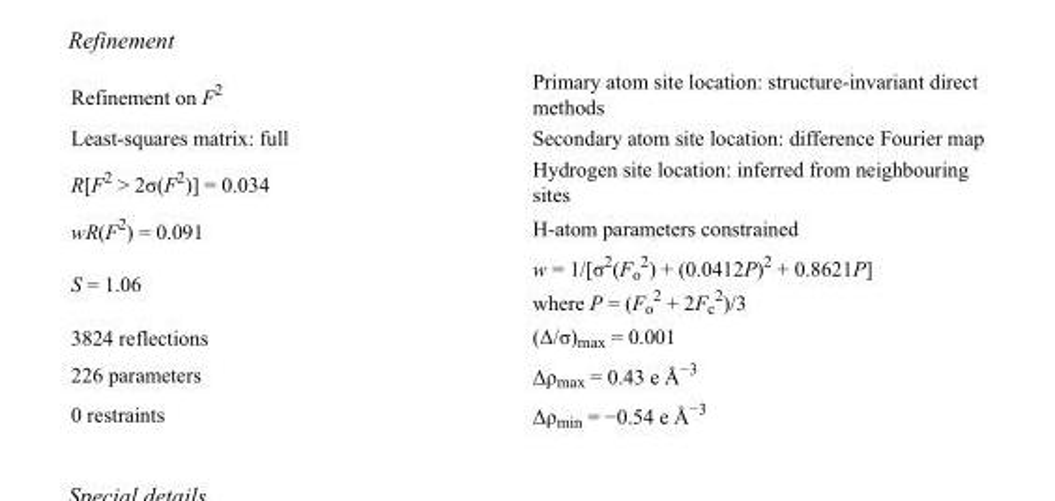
<table><tbody><tr><td>Refinement on F<sup>2</sup></td><td>Primary atom site location: structure-invariant direct methods</td></tr><tr><td>Least-squares matrix: full</td><td>Secondary atom site location: difference Fourier map</td></tr><tr><td>R[F<sup>2</sup> &gt; 2σ(F<sup>2</sup>)] = 0.034</td><td>Hydrogen site location: inferred from neighbouring sites</td></tr><tr><td>wR(F<sup>2</sup>) = 0.091</td><td>H-atom parameters constrained</td></tr><tr><td>S = 1.06</td><td>w = 1/[σ<sup>2</sup>(F<sub>o</sub> <sup>2</sup>) + (0.0412P)<sup>2</sup> + 0.8621P] where P = (F<sub>o</sub> <sup>2</sup> + 2F<sub>c</sub> <sup>2</sup>)/3</td></tr><tr><td>3824 reflections</td><td>(Δ/σ)<sub>max</sub> = 0.001</td></tr><tr><td>226 parameters</td><td>Δρ<sub>max</sub> = 0.43 e Å<sup>−3</sup></td></tr><tr><td>0 restraints</td><td>Δρ<sub>min</sub> = −0.54 e Å<sup>−3</sup></td></tr></tbody></table>